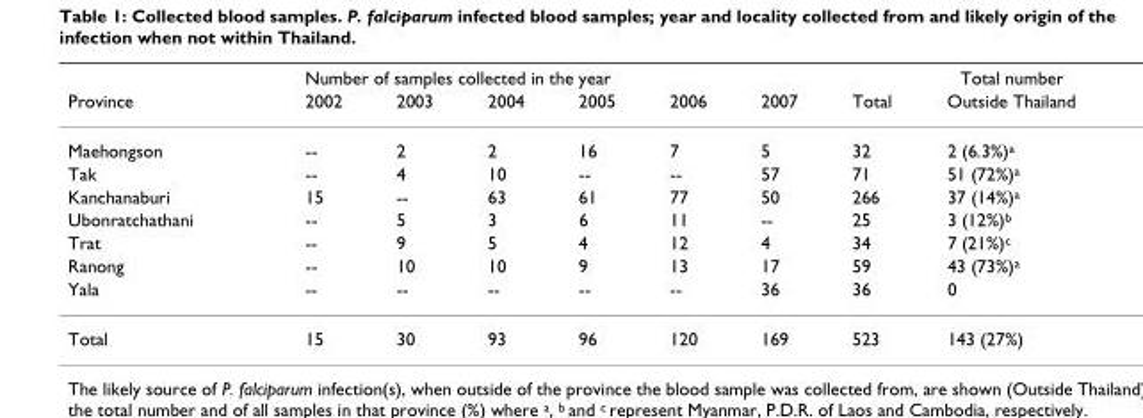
<table><thead><tr><td rowspan="2">Province</td><td colspan="6">Number of samples collected in the year</td><td colspan="2">Total number</td></tr><tr><td>2002</td><td>2003</td><td>2004</td><td>2005</td><td>2006</td><td>2007</td><td>Total</td><td>Outside Thailand</td></tr></thead><tbody><tr><td>Maehongson</td><td>--</td><td>2</td><td>2</td><td>16</td><td>7</td><td>5</td><td>32</td><td>2 (6.3%)<sup>a</sup></td></tr><tr><td>Tak</td><td>--</td><td>4</td><td>10</td><td>--</td><td>--</td><td>57</td><td>71</td><td>51 (72%)<sup>a</sup></td></tr><tr><td>Kanchanaburi</td><td>15</td><td>--</td><td>63</td><td>61</td><td>77</td><td>50</td><td>266</td><td>37 (14%)<sup>a</sup></td></tr><tr><td>Ubonratchathani</td><td>--</td><td>5</td><td>3</td><td>6</td><td>11</td><td>--</td><td>25</td><td>3 (12%)<sup>b</sup></td></tr><tr><td>Trat</td><td>--</td><td>9</td><td>5</td><td>4</td><td>12</td><td>4</td><td>34</td><td>7 (21%)<sup>c</sup></td></tr><tr><td>Ranong</td><td>--</td><td>10</td><td>10</td><td>9</td><td>13</td><td>17</td><td>59</td><td>43 (73%)<sup>a</sup></td></tr><tr><td>Yala</td><td>--</td><td>--</td><td>--</td><td>--</td><td>--</td><td>36</td><td>36</td><td>0</td></tr><tr><td>Total</td><td>15</td><td>30</td><td>93</td><td>96</td><td>120</td><td>169</td><td>523</td><td>143 (27%)</td></tr></tbody></table>